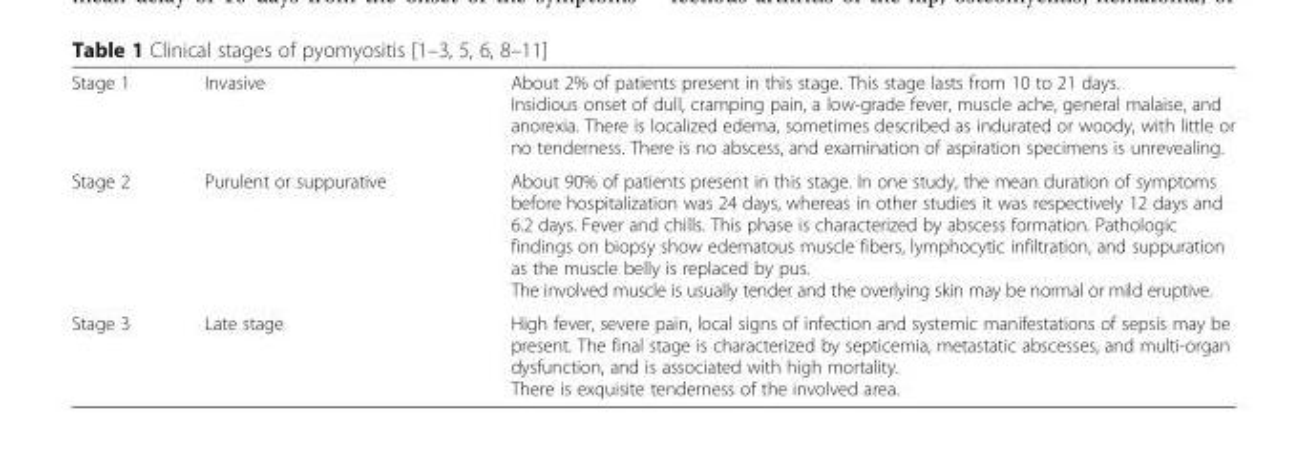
<table><tbody><tr><td>Stage 1</td><td>Invasive</td><td>About 2% of patients present in this stage. This stage lasts from 10 to 21 days. Insidious onset of dull, cramping pain, a low-grade fever, muscle ache, general malaise, and anorexia. There is localized edema, sometimes described as indurated or woody, with little or no tenderness. There is no abscess, and examination of aspiration specimens is unrevealing.</td></tr><tr><td>Stage 2</td><td>Purulent or suppurative</td><td>About 90% of patients present in this stage. In one study, the mean duration of symptoms before hospitalization was 24 days, whereas in other studies it was respectively 12 days and 6.2 days. Fever and chills. This phase is characterized by abscess formation. Pathologic findings on biopsy show edematous muscle fibers, lymphocytic infiltration, and suppuration as the muscle belly is replaced by pus. The involved muscle is usually tender and the overlying skin may be normal or mild eruptive.</td></tr><tr><td>Stage 3</td><td>Late stage</td><td>High fever, severe pain, local signs of infection and systemic manifestations of sepsis may be present. The final stage is characterized by septicemia, metastatic abscesses, and multi-organ dysfunction, and is associated with high mortality. There is exquisite tenderness of the involved area.</td></tr></tbody></table>